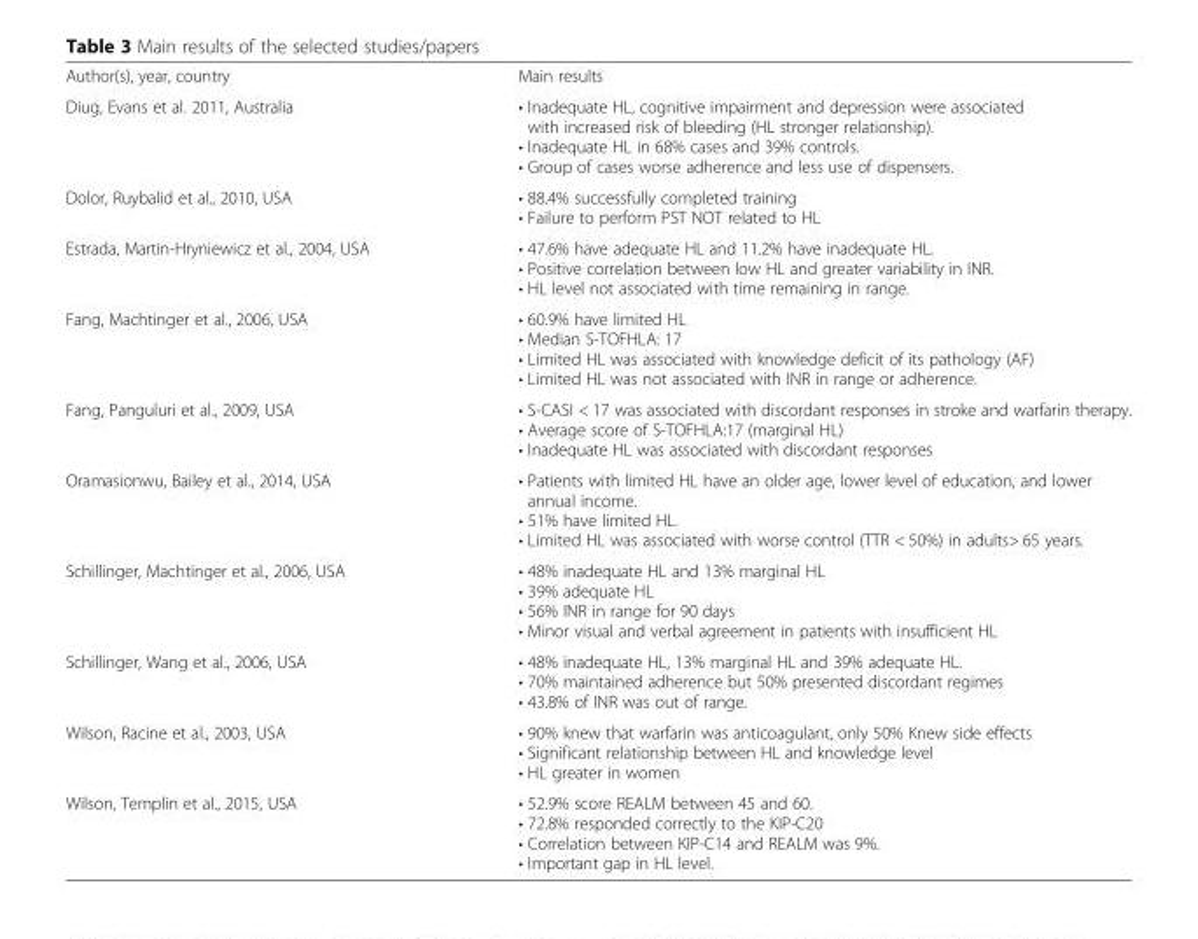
<table><tbody><tr><td>Author(s), year, country</td><td>Main results</td></tr><tr><td>Diug, Evans et al. 2011, Australia</td><td>• Inadequate HL, cognitive impairment and depression were associated with increased risk of bleeding (HL stronger relationship). • Inadequate HL in 68% cases and 39% controls. • Group of cases worse adherence and less use of dispensers.</td></tr><tr><td>Dolor, Ruybalid et al., 2010, USA</td><td>• 88.4% successfully completed training • Failure to perform PST NOT related to HL</td></tr><tr><td>Estrada, Martin-Hryniewicz et al., 2004, USA</td><td>• 47.6% have adequate HL and 11.2% have inadequate HL. • Positive correlation between low HL and greater variability in INR. • HL level not associated with time remaining in range.</td></tr><tr><td>Fang, Machtinger et al., 2006, USA</td><td>• 60.9% have limited HL • Median S-TOFHLA: 17 • Limited HL was associated with knowledge deficit of its pathology (AF) • Limited HL was not associated with INR in range or adherence.</td></tr><tr><td>Fang, Panguluri et al., 2009, USA</td><td>• S-CASI &lt; 17 was associated with discordant responses in stroke and warfarin therapy. • Average score of S-TOFHLA:17 (marginal HL) • Inadequate HL was associated with discordant responses</td></tr><tr><td>Oramasionwu, Bailey et al., 2014, USA</td><td>• Patients with limited HL have an older age, lower level of education, and lower annual income. • 51% have limited HL. • Limited HL was associated with worse control (TTR &lt; 50%) in adults&gt; 65 years.</td></tr><tr><td>Schillinger, Machtinger et al., 2006, USA</td><td>• 48% inadequate HL and 13% marginal HL • 39% adequate HL • 56% INR in range for 90 days • Minor visual and verbal agreement in patients with insufficient HL</td></tr><tr><td>Schillinger, Wang et al., 2006, USA</td><td>• 48% inadequate HL, 13% marginal HL and 39% adequate HL. • 70% maintained adherence but 50% presented discordant regimes • 43.8% of INR was out of range.</td></tr><tr><td>Wilson, Racine et al., 2003, USA</td><td>• 90% knew that warfarin was anticoagulant, only 50% Knew side effects • Significant relationship between HL and knowledge level • HL greater in women</td></tr><tr><td>Wilson, Templin et al., 2015, USA</td><td>• 52.9% score REALM between 45 and 60. • 72.8% responded correctly to the KIP-C20 • Correlation between KIP-C14 and REALM was 9%. • Important gap in HL level.</td></tr></tbody></table>